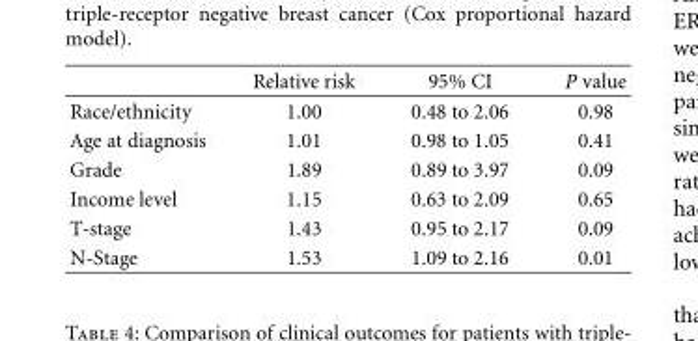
<table><thead><tr><td></td><td>Relative risk</td><td>95% CI</td><td>P value</td></tr></thead><tbody><tr><td>Race/ethnicity</td><td>1.00</td><td>0.48 to 2.06</td><td>0.98</td></tr><tr><td>Age at diagnosis</td><td>1.01</td><td>0.98 to 1.05</td><td>0.41</td></tr><tr><td>Grade</td><td>1.89</td><td>0.89 to 3.97</td><td>0.09</td></tr><tr><td>Income level</td><td>1.15</td><td>0.63 to 2.09</td><td>0.65</td></tr><tr><td>T-stage</td><td>1.43</td><td>0.95 to 2.17</td><td>0.09</td></tr><tr><td>N-Stage</td><td>1.53</td><td>1.09 to 2.16</td><td>0.01</td></tr></tbody></table>